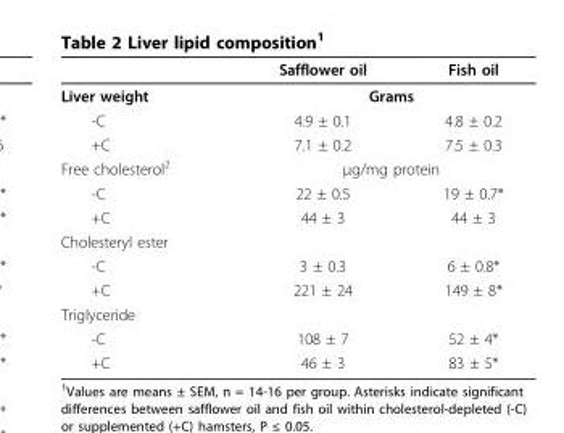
<table><thead><tr><td></td><td>Safflower oil</td><td>Fish oil</td></tr></thead><tbody><tr><td>Liver weight</td><td colspan="2">Grams</td></tr><tr><td>-C</td><td>4.9 ± 0.1</td><td>4.8 ± 0.2</td></tr><tr><td>+C</td><td>7.1 ± 0.2</td><td>7.5 ± 0.3</td></tr><tr><td>Free cholesterol<sup>2</sup></td><td colspan="2">μg/mg protein</td></tr><tr><td>-C</td><td>22 ± 0.5</td><td>19 ± 0.7*</td></tr><tr><td>+C</td><td>44 ± 3</td><td>44 ± 3</td></tr><tr><td colspan="3">Cholesteryl ester</td></tr><tr><td>-C</td><td>3 ± 0.3</td><td>6 ± 0.8*</td></tr><tr><td>+C</td><td>221 ± 24</td><td>149 ± 8*</td></tr><tr><td colspan="3">Triglyceride</td></tr><tr><td>-C</td><td>108 ± 7</td><td>52 ± 4*</td></tr><tr><td>+C</td><td>46 ± 3</td><td>83 ± 5*</td></tr></tbody></table>